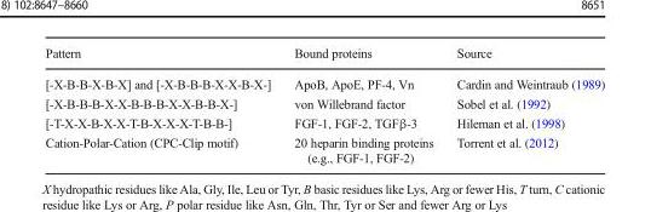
<table><thead><tr><td>Pattern</td><td>Bound proteins</td><td>Source</td></tr></thead><tbody><tr><td>[-X-B-B-X-B-X] and [-X-B-B-B-X-X-B-X-]</td><td>ApoB, ApoE, PF-4, Vn</td><td>Cardin and Weintraub (1989)</td></tr><tr><td>[-X-B-B-B-X-X-B-B-B-X-X-B-B-X-]</td><td>von Willebrand factor</td><td>Sobel et al. (1992)</td></tr><tr><td>[-T-X-X-B-X-X-T-B-X-X-X-T-B-B-]</td><td>FGF-1, FGF-2, TGFβ-3</td><td>Hileman et al. (1998)</td></tr><tr><td>Cation-Polar-Cation (CPC-Clip motif)</td><td>20 heparin binding proteins (e.g., FGF-1, FGF-2)</td><td>Torrent et al. (2012)</td></tr></tbody></table>